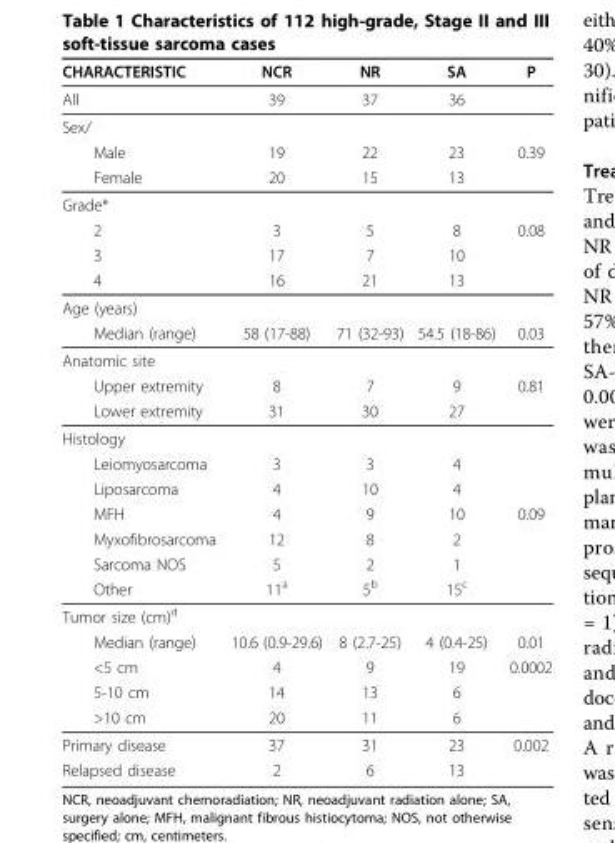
<table><thead><tr><td>CHARACTERISTIC</td><td>NCR</td><td>NR</td><td>SA</td><td>P</td></tr></thead><tbody><tr><td>All</td><td>39</td><td>37</td><td>36</td><td></td></tr><tr><td colspan="5">Sex/</td></tr><tr><td>Male</td><td>19</td><td>22</td><td>23</td><td>0.39</td></tr><tr><td>Female</td><td>20</td><td>15</td><td>13</td><td></td></tr><tr><td colspan="5">Grade*</td></tr><tr><td>2</td><td>3</td><td>5</td><td>8</td><td>0.08</td></tr><tr><td>3</td><td>17</td><td>7</td><td>10</td><td></td></tr><tr><td>4</td><td>16</td><td>21</td><td>13</td><td></td></tr><tr><td colspan="5">Age (years)</td></tr><tr><td>Median (range)</td><td>58 (17-88)</td><td>71 (32-93)</td><td>54.5 (18-86)</td><td>0.03</td></tr><tr><td colspan="5">Anatomic site</td></tr><tr><td>Upper extremity</td><td>8</td><td>7</td><td>9</td><td>0.81</td></tr><tr><td>Lower extremity</td><td>31</td><td>30</td><td>27</td><td></td></tr><tr><td colspan="5">Histology</td></tr><tr><td>Leiomyosarcoma</td><td>3</td><td>3</td><td>4</td><td></td></tr><tr><td>Liposarcoma</td><td>4</td><td>10</td><td>4</td><td></td></tr><tr><td>MFH</td><td>4</td><td>9</td><td>10</td><td>0.09</td></tr><tr><td>Myxofibrosarcoma</td><td>12</td><td>8</td><td>2</td><td></td></tr><tr><td>Sarcoma NOS</td><td>5</td><td>2</td><td>1</td><td></td></tr><tr><td>Other</td><td>11<sup>a</sup></td><td>5<sup>b</sup></td><td>15<sup>c</sup></td><td></td></tr><tr><td colspan="5">Tumor size (cm)<sup>d</sup></td></tr><tr><td>Median (range)</td><td>10.6 (0.9-29.6)</td><td>8 (2.7-25)</td><td>4 (0.4-25)</td><td>0.01</td></tr><tr><td>&lt;5 cm</td><td>4</td><td>9</td><td>19</td><td>0.0002</td></tr><tr><td>5-10 cm</td><td>14</td><td>13</td><td>6</td><td></td></tr><tr><td>&gt;10 cm</td><td>20</td><td>11</td><td>6</td><td></td></tr><tr><td>Primary disease</td><td>37</td><td>31</td><td>23</td><td>0.002</td></tr><tr><td>Relapsed disease</td><td>2</td><td>6</td><td>13</td><td></td></tr></tbody></table>